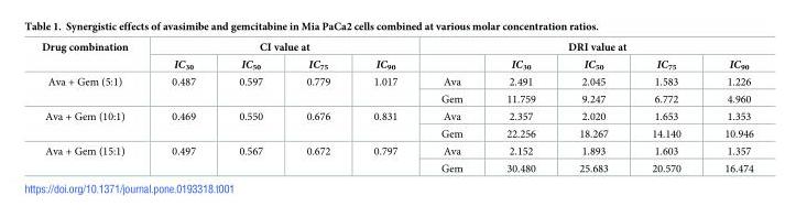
<table><thead><tr><td rowspan="2">Drug combination</td><td colspan="4">CI value at</td><td colspan="5">DRI value at</td></tr><tr><td>IC<sub>30</sub></td><td>IC<sub>50</sub></td><td>IC<sub>75</sub></td><td>IC<sub>90</sub></td><td></td><td>IC<sub>30</sub></td><td>IC<sub>50</sub></td><td>IC<sub>75</sub></td><td>IC<sub>90</sub></td></tr></thead><tbody><tr><td rowspan="2">Ava + Gem (5:1)</td><td rowspan="2">0.487</td><td rowspan="2">0.597</td><td rowspan="2">0.779</td><td rowspan="2">1.017</td><td>Ava</td><td>2.491</td><td>2.045</td><td>1.583</td><td>1.226</td></tr><tr><td>Gem</td><td>11.759</td><td>9.247</td><td>6.772</td><td>4.960</td></tr><tr><td rowspan="2">Ava + Gem (10:1)</td><td rowspan="2">0.469</td><td rowspan="2">0.550</td><td rowspan="2">0.676</td><td rowspan="2">0.831</td><td>Ava</td><td>2.357</td><td>2.020</td><td>1.653</td><td>1.353</td></tr><tr><td>Gem</td><td>22.256</td><td>18.267</td><td>14.140</td><td>10.946</td></tr><tr><td rowspan="2">Ava + Gem (15:1)</td><td rowspan="2">0.497</td><td rowspan="2">0.567</td><td rowspan="2">0.672</td><td rowspan="2">0.797</td><td>Ava</td><td>2.152</td><td>1.893</td><td>1.603</td><td>1.357</td></tr><tr><td>Gem</td><td>30.480</td><td>25.683</td><td>20.570</td><td>16.474</td></tr></tbody></table>